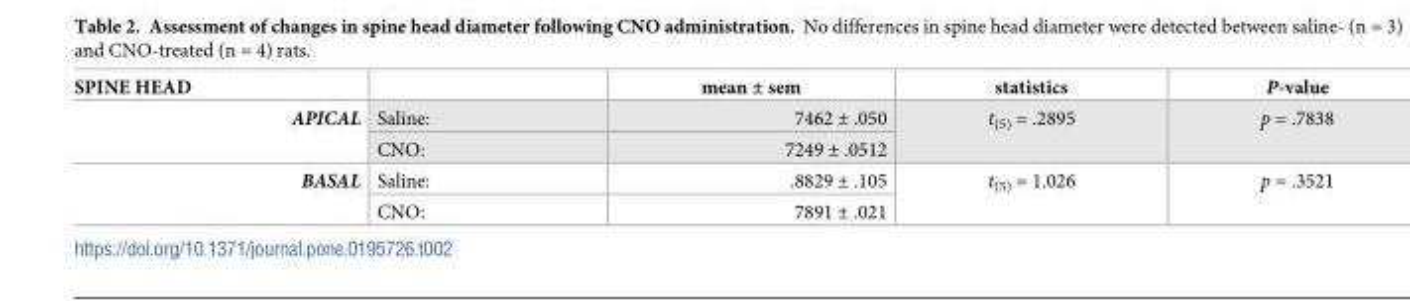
<table><thead><tr><td>SPINE HEAD</td><td></td><td>mean ± sem</td><td>statistics</td><td>P-value</td></tr></thead><tbody><tr><td rowspan="2">APICAL</td><td>Saline:</td><td>7462 ± .050</td><td rowspan="2">t<sub>(5)</sub> = .2895</td><td rowspan="2">p = .7838</td></tr><tr><td>CNO:</td><td>7249 ± .0512</td></tr><tr><td rowspan="2">BASAL</td><td>Saline:</td><td>.8829 ± .105</td><td rowspan="2">t<sub>(5)</sub> = 1.026</td><td rowspan="2">p = .3521</td></tr><tr><td>CNO:</td><td>7891 ± .021</td></tr></tbody></table>